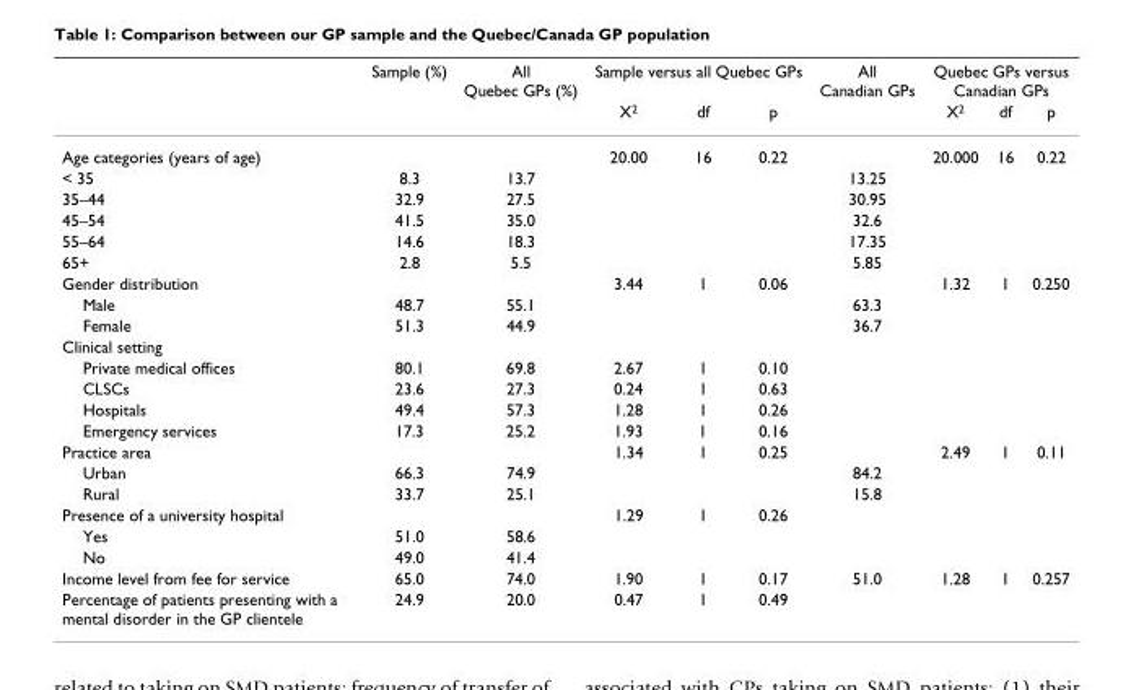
<table><thead><tr><td rowspan="2"></td><td rowspan="2">Sample (%)</td><td rowspan="2">All Quebec GPs (%)</td><td colspan="3">Sample versus all Quebec GPs</td><td rowspan="2">All Canadian GPs</td><td colspan="3">Quebec GPs versus Canadian GPs</td></tr><tr><td>X<sup>2</sup></td><td>df</td><td>p</td><td>X<sup>2</sup></td><td>df</td><td>p</td></tr></thead><tbody><tr><td>Age categories (years of age)</td><td></td><td></td><td>20.00</td><td>16</td><td>0.22</td><td></td><td>20.000</td><td>16</td><td>0.22</td></tr><tr><td>&lt; 35</td><td>8.3</td><td>13.7</td><td></td><td></td><td></td><td>13.25</td><td></td><td></td><td></td></tr><tr><td>35–44</td><td>32.9</td><td>27.5</td><td></td><td></td><td></td><td>30.95</td><td></td><td></td><td></td></tr><tr><td>45–54</td><td>41.5</td><td>35.0</td><td></td><td></td><td></td><td>32.6</td><td></td><td></td><td></td></tr><tr><td>55–64</td><td>14.6</td><td>18.3</td><td></td><td></td><td></td><td>17.35</td><td></td><td></td><td></td></tr><tr><td>65+</td><td>2.8</td><td>5.5</td><td></td><td></td><td></td><td>5.85</td><td></td><td></td><td></td></tr><tr><td>Gender distribution</td><td></td><td></td><td>3.44</td><td>1</td><td>0.06</td><td></td><td>1.32</td><td>1</td><td>0.250</td></tr><tr><td>Male</td><td>48.7</td><td>55.1</td><td></td><td></td><td></td><td>63.3</td><td></td><td></td><td></td></tr><tr><td>Female</td><td>51.3</td><td>44.9</td><td></td><td></td><td></td><td>36.7</td><td></td><td></td><td></td></tr><tr><td colspan="10">Clinical setting</td></tr><tr><td>Private medical offices</td><td>80.1</td><td>69.8</td><td>2.67</td><td>1</td><td>0.10</td><td></td><td></td><td></td><td></td></tr><tr><td>CLSCs</td><td>23.6</td><td>27.3</td><td>0.24</td><td>1</td><td>0.63</td><td></td><td></td><td></td><td></td></tr><tr><td>Hospitals</td><td>49.4</td><td>57.3</td><td>1.28</td><td>1</td><td>0.26</td><td></td><td></td><td></td><td></td></tr><tr><td>Emergency services</td><td>17.3</td><td>25.2</td><td>1.93</td><td>1</td><td>0.16</td><td></td><td></td><td></td><td></td></tr><tr><td>Practice area</td><td></td><td></td><td>1.34</td><td>1</td><td>0.25</td><td></td><td>2.49</td><td>1</td><td>0.11</td></tr><tr><td>Urban</td><td>66.3</td><td>74.9</td><td></td><td></td><td></td><td>84.2</td><td></td><td></td><td></td></tr><tr><td>Rural</td><td>33.7</td><td>25.1</td><td></td><td></td><td></td><td>15.8</td><td></td><td></td><td></td></tr><tr><td>Presence of a university hospital</td><td></td><td></td><td>1.29</td><td>1</td><td>0.26</td><td></td><td></td><td></td><td></td></tr><tr><td>Yes</td><td>51.0</td><td>58.6</td><td></td><td></td><td></td><td></td><td></td><td></td><td></td></tr><tr><td>No</td><td>49.0</td><td>41.4</td><td></td><td></td><td></td><td></td><td></td><td></td><td></td></tr><tr><td>Income level from fee for service</td><td>65.0</td><td>74.0</td><td>1.90</td><td>1</td><td>0.17</td><td>51.0</td><td>1.28</td><td>1</td><td>0.257</td></tr><tr><td>Percentage of patients presenting with a mental disorder in the GP clientele</td><td>24.9</td><td>20.0</td><td>0.47</td><td>1</td><td>0.49</td><td></td><td></td><td></td><td></td></tr></tbody></table>